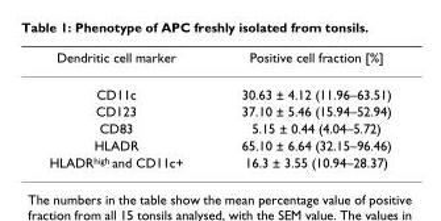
<table><thead><tr><td>Dendritic cell marker</td><td>Positive cell fraction [%]</td></tr></thead><tbody><tr><td>CD11c</td><td>30.63 ± 4.12 (11.96–63.51)</td></tr><tr><td>CD123</td><td>37.10 ± 5.46 (15.94–52.94)</td></tr><tr><td>CD83</td><td>5.15 ± 0.44 (4.04–5.72)</td></tr><tr><td>HLADR</td><td>65.10 ± 6.64 (32.15–96.46)</td></tr><tr><td>HLADR<sup>high</sup> and CD11c+</td><td>16.3 ± 3.55 (10.94–28.37)</td></tr></tbody></table>